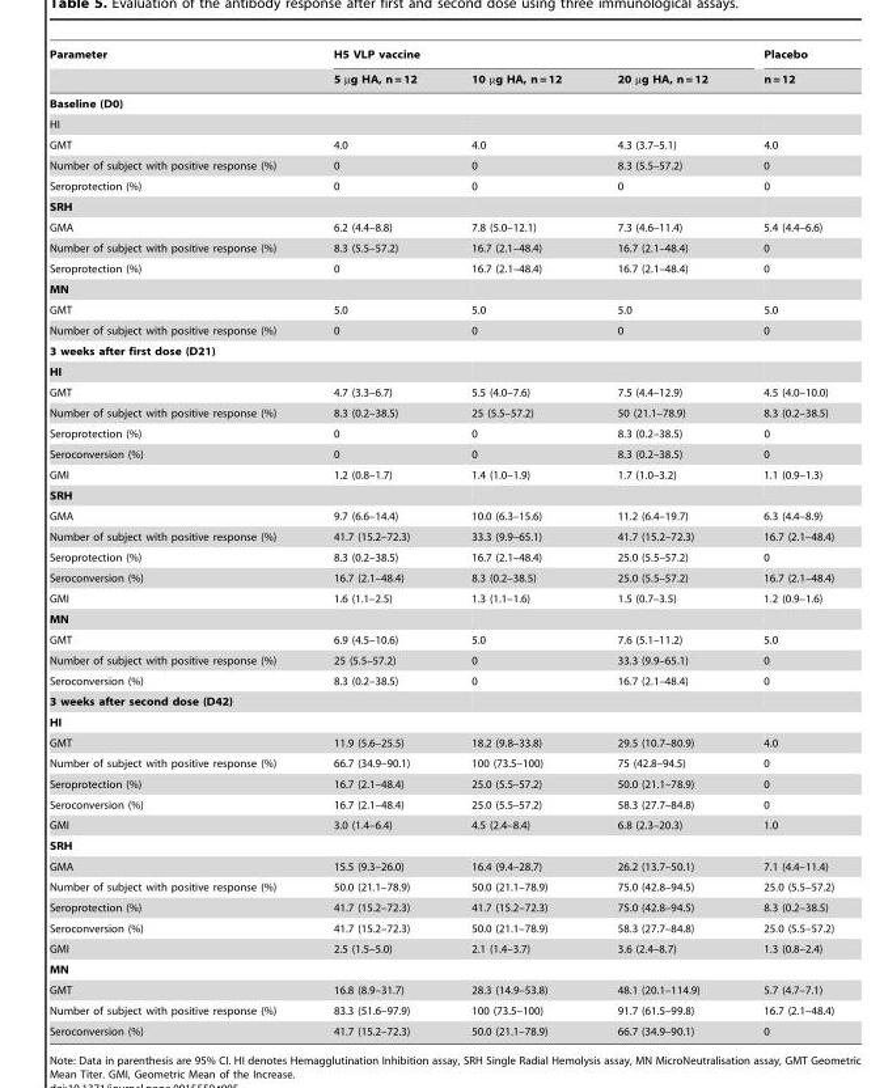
<table><thead><tr><td rowspan="2">Parameter</td><td colspan="3">H5 VLP vaccine</td><td rowspan="2">Placebo n = 12</td></tr><tr><td>5 µg HA, n = 12</td><td>10 µg HA, n = 12</td><td>20 µg HA, n = 12</td></tr></thead><tbody><tr><td colspan="5">Baseline (D0)</td></tr><tr><td colspan="5">HI</td></tr><tr><td>GMT</td><td>4.0</td><td>4.0</td><td>4.3 (3.7–5.1)</td><td>4.0</td></tr><tr><td>Number of subject with positive response (%)</td><td>0</td><td>0</td><td>8.3 (5.5–57.2)</td><td>0</td></tr><tr><td>Seroprotection (%)</td><td>0</td><td>0</td><td>0</td><td>0</td></tr><tr><td colspan="5">SRH</td></tr><tr><td>GMA</td><td>6.2 (4.4–8.8)</td><td>7.8 (5.0–12.1)</td><td>7.3 (4.6–11.4)</td><td>5.4 (4.4–6.6)</td></tr><tr><td>Number of subject with positive response (%)</td><td>8.3 (5.5–57.2)</td><td>16.7 (2.1–48.4)</td><td>16.7 (2.1–48.4)</td><td>0</td></tr><tr><td>Seroprotection (%)</td><td>0</td><td>16.7 (2.1–48.4)</td><td>16.7 (2.1–48.4)</td><td>0</td></tr><tr><td colspan="5">MN</td></tr><tr><td>GMT</td><td>5.0</td><td>5.0</td><td>5.0</td><td>5.0</td></tr><tr><td>Number of subject with positive response (%)</td><td>0</td><td>0</td><td>0</td><td>0</td></tr><tr><td colspan="5">3 weeks after first dose (D21)</td></tr><tr><td colspan="5">HI</td></tr><tr><td>GMT</td><td>4.7 (3.3–6.7)</td><td>5.5 (4.0–7.6)</td><td>7.5 (4.4–12.9)</td><td>4.5 (4.0–10.0)</td></tr><tr><td>Number of subject with positive response (%)</td><td>8.3 (0.2–38.5)</td><td>25 (5.5–57.2)</td><td>50 (21.1–78.9)</td><td>8.3 (0.2–38.5)</td></tr><tr><td>Seroprotection (%)</td><td>0</td><td>0</td><td>8.3 (0.2–38.5)</td><td>0</td></tr><tr><td>Seroconversion (%)</td><td>0</td><td>0</td><td>8.3 (0.2–38.5)</td><td>0</td></tr><tr><td>GMI</td><td>1.2 (0.8–1.7)</td><td>1.4 (1.0–1.9)</td><td>1.7 (1.0–3.2)</td><td>1.1 (0.9–1.3)</td></tr><tr><td colspan="5">SRH</td></tr><tr><td>GMA</td><td>9.7 (6.6–14.4)</td><td>10.0 (6.3–15.6)</td><td>11.2 (6.4–19.7)</td><td>6.3 (4.4–8.9)</td></tr><tr><td>Number of subject with positive response (%)</td><td>41.7 (15.2–72.3)</td><td>33.3 (9.9–65.1)</td><td>41.7 (15.2–72.3)</td><td>16.7 (2.1–48.4)</td></tr><tr><td>Seroprotection (%)</td><td>8.3 (0.2–38.5)</td><td>16.7 (2.1–48.4)</td><td>25.0 (5.5–57.2)</td><td>0</td></tr><tr><td>Seroconversion (%)</td><td>16.7 (2.1–48.4)</td><td>8.3 (0.2–38.5)</td><td>25.0 (5.5–57.2)</td><td>16.7 (2.1–48.4)</td></tr><tr><td>GMI</td><td>1.6 (1.1–2.5)</td><td>1.3 (1.1–1.6)</td><td>1.5 (0.7–3.5)</td><td>1.2 (0.9–1.6)</td></tr><tr><td colspan="5">MN</td></tr><tr><td>GMT</td><td>6.9 (4.5–10.6)</td><td>5.0</td><td>7.6 (5.1–11.2)</td><td>5.0</td></tr><tr><td>Number of subject with positive response (%)</td><td>25 (5.5–57.2)</td><td>0</td><td>33.3 (9.9–65.1)</td><td>0</td></tr><tr><td>Seroconversion (%)</td><td>8.3 (0.2–38.5)</td><td>0</td><td>16.7 (2.1–48.4)</td><td>0</td></tr><tr><td colspan="5">3 weeks after second dose (D42)</td></tr><tr><td colspan="5">HI</td></tr><tr><td>GMT</td><td>11.9 (5.6–25.5)</td><td>18.2 (9.8–33.8)</td><td>29.5 (10.7–80.9)</td><td>4.0</td></tr><tr><td>Number of subject with positive response (%)</td><td>66.7 (34.9–90.1)</td><td>100 (73.5–100)</td><td>75 (42.8–94.5)</td><td>0</td></tr><tr><td>Seroprotection (%)</td><td>16.7 (2.1–48.4)</td><td>25.0 (5.5–57.2)</td><td>50.0 (21.1–78.9)</td><td>0</td></tr><tr><td>Seroconversion (%)</td><td>16.7 (2.1–48.4)</td><td>25.0 (5.5–57.2)</td><td>58.3 (27.7–84.8)</td><td>0</td></tr><tr><td>GMI</td><td>3.0 (1.4–6.4)</td><td>4.5 (2.4–8.4)</td><td>6.8 (2.3–20.3)</td><td>1.0</td></tr><tr><td colspan="5">SRH</td></tr><tr><td>GMA</td><td>15.5 (9.3–26.0)</td><td>16.4 (9.4–28.7)</td><td>26.2 (13.7–50.1)</td><td>7.1 (4.4–11.4)</td></tr><tr><td>Number of subject with positive response (%)</td><td>50.0 (21.1–78.9)</td><td>50.0 (21.1–78.9)</td><td>75.0 (42.8–94.5)</td><td>25.0 (5.5–57.2)</td></tr><tr><td>Seroprotection (%)</td><td>41.7 (15.2–72.3)</td><td>41.7 (15.2–72.3)</td><td>75.0 (42.8–94.5)</td><td>8.3 (0.2–38.5)</td></tr><tr><td>Seroconversion (%)</td><td>41.7 (15.2–72.3)</td><td>50.0 (21.1–78.9)</td><td>58.3 (27.7–84.8)</td><td>25.0 (5.5–57.2)</td></tr><tr><td>GMI</td><td>2.5 (1.5–5.0)</td><td>2.1 (1.4–3.7)</td><td>3.6 (2.4–8.7)</td><td>1.3 (0.8–2.4)</td></tr><tr><td colspan="5">MN</td></tr><tr><td>GMT</td><td>16.8 (8.9–31.7)</td><td>28.3 (14.9–53.8)</td><td>48.1 (20.1–114.9)</td><td>5.7 (4.7–7.1)</td></tr><tr><td>Number of subject with positive response (%)</td><td>83.3 (51.6–97.9)</td><td>100 (73.5–100)</td><td>91.7 (61.5–99.8)</td><td>16.7 (2.1–48.4)</td></tr><tr><td>Seroconversion (%)</td><td>41.7 (15.2–72.3)</td><td>50.0 (21.1–78.9)</td><td>66.7 (34.9–90.1)</td><td>0</td></tr></tbody></table>